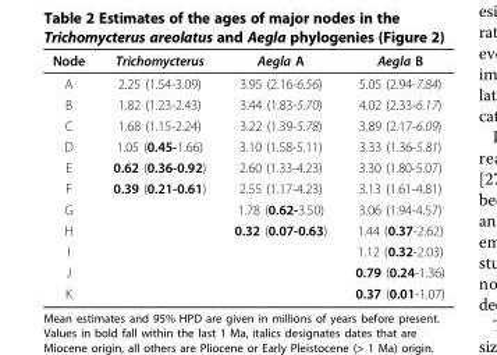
<table><thead><tr><td>Node</td><td>Trichomycterus</td><td>Aegla A</td><td>Aegla B</td></tr></thead><tbody><tr><td>A</td><td>2.25 (1.54-3.09)</td><td>3.95 (2.16-6.56)</td><td>5.05 (2.94-7.84)</td></tr><tr><td>B</td><td>1.82 (1.23-2.43)</td><td>3.44 (1.83-5.70)</td><td>4.02 (2.33-6.17)</td></tr><tr><td>C</td><td>1.68 (1.15-2.24)</td><td>3.22 (1.39-5.78)</td><td>3.89 (2.17-6.09)</td></tr><tr><td>D</td><td>1.05 (0.45-1.66)</td><td>3.10 (1.58-5.11)</td><td>3.33 (1.36-5.81)</td></tr><tr><td>E</td><td>0.62 (0.36-0.92)</td><td>2.60 (1.33-4.23)</td><td>3.30 (1.80-5.07)</td></tr><tr><td>F</td><td>0.39 (0.21-0.61)</td><td>2.55 (1.17-4.23)</td><td>3.13 (1.61-4.81)</td></tr><tr><td>G</td><td></td><td>1.78 (0.62-3.50)</td><td>3.06 (1.94-4.57)</td></tr><tr><td>H</td><td></td><td>0.32 (0.07-0.63)</td><td>1.44 (0.37-2.62)</td></tr><tr><td>I</td><td></td><td></td><td>1.12 (0.32-2.03)</td></tr><tr><td>J</td><td></td><td></td><td>0.79 (0.24-1.36)</td></tr><tr><td>K</td><td></td><td></td><td>0.37 (0.01-1.07)</td></tr></tbody></table>